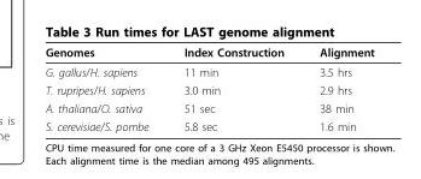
<table><thead><tr><td>Genomes</td><td>Index Construction</td><td>Alignment</td></tr></thead><tbody><tr><td>G. gallus/H. sapiens</td><td>11 min</td><td>3.5 hrs</td></tr><tr><td>T. rupripes/H. sapiens</td><td>3.0 min</td><td>2.9 hrs</td></tr><tr><td>A. thaliana/O. sativa</td><td>51 sec</td><td>38 min</td></tr><tr><td>S. cerevisiae/S. pombe</td><td>5.8 sec</td><td>1.6 min</td></tr></tbody></table>